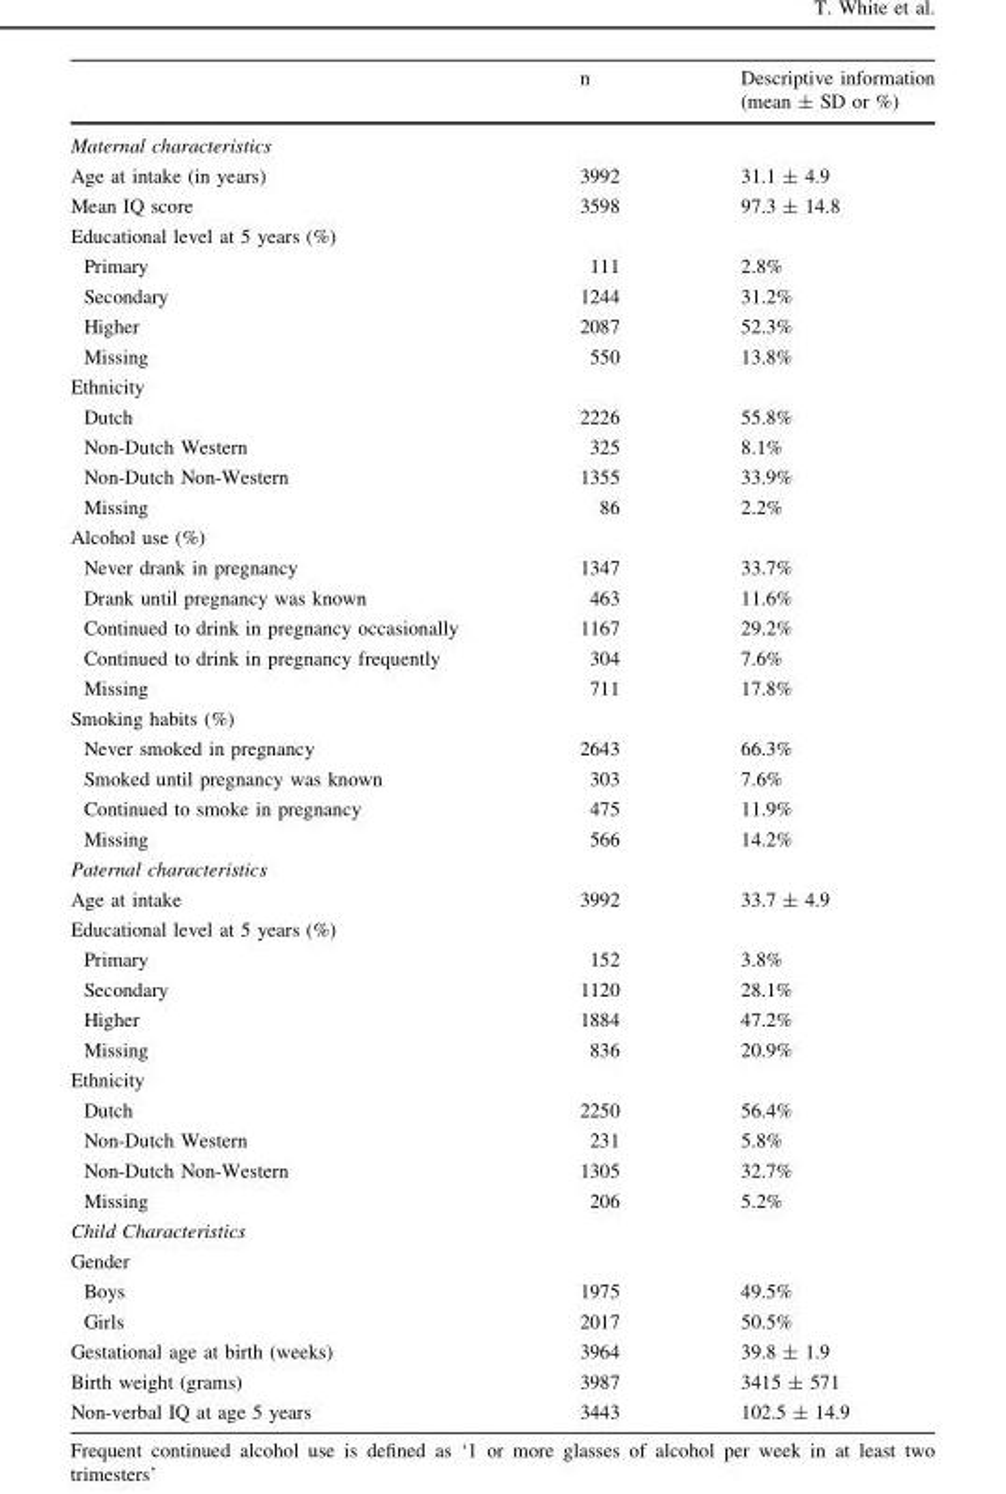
<table><thead><tr><td></td><td>n</td><td>Descriptive information (mean ± SD or %)</td></tr></thead><tbody><tr><td colspan="3">Maternal characteristics</td></tr><tr><td>Age at intake (in years)</td><td>3992</td><td>31.1 ± 4.9</td></tr><tr><td>Mean IQ score</td><td>3598</td><td>97.3 ± 14.8</td></tr><tr><td colspan="3">Educational level at 5 years (%)</td></tr><tr><td>Primary</td><td>111</td><td>2.8%</td></tr><tr><td>Secondary</td><td>1244</td><td>31.2%</td></tr><tr><td>Higher</td><td>2087</td><td>52.3%</td></tr><tr><td>Missing</td><td>550</td><td>13.8%</td></tr><tr><td colspan="3">Ethnicity</td></tr><tr><td>Dutch</td><td>2226</td><td>55.8%</td></tr><tr><td>Non-Dutch Western</td><td>325</td><td>8.1%</td></tr><tr><td>Non-Dutch Non-Western</td><td>1355</td><td>33.9%</td></tr><tr><td>Missing</td><td>86</td><td>2.2%</td></tr><tr><td colspan="3">Alcohol use (%)</td></tr><tr><td>Never drank in pregnancy</td><td>1347</td><td>33.7%</td></tr><tr><td>Drank until pregnancy was known</td><td>463</td><td>11.6%</td></tr><tr><td>Continued to drink in pregnancy occasionally</td><td>1167</td><td>29.2%</td></tr><tr><td>Continued to drink in pregnancy frequently</td><td>304</td><td>7.6%</td></tr><tr><td>Missing</td><td>711</td><td>17.8%</td></tr><tr><td colspan="3">Smoking habits (%)</td></tr><tr><td>Never smoked in pregnancy</td><td>2643</td><td>66.3%</td></tr><tr><td>Smoked until pregnancy was known</td><td>303</td><td>7.6%</td></tr><tr><td>Continued to smoke in pregnancy</td><td>475</td><td>11.9%</td></tr><tr><td>Missing</td><td>566</td><td>14.2%</td></tr><tr><td colspan="3">Paternal characteristics</td></tr><tr><td>Age at intake</td><td>3992</td><td>33.7 ± 4.9</td></tr><tr><td colspan="3">Educational level at 5 years (%)</td></tr><tr><td>Primary</td><td>152</td><td>3.8%</td></tr><tr><td>Secondary</td><td>1120</td><td>28.1%</td></tr><tr><td>Higher</td><td>1884</td><td>47.2%</td></tr><tr><td>Missing</td><td>836</td><td>20.9%</td></tr><tr><td colspan="3">Ethnicity</td></tr><tr><td>Dutch</td><td>2250</td><td>56.4%</td></tr><tr><td>Non-Dutch Western</td><td>231</td><td>5.8%</td></tr><tr><td>Non-Dutch Non-Western</td><td>1305</td><td>32.7%</td></tr><tr><td>Missing</td><td>206</td><td>5.2%</td></tr><tr><td colspan="3">Child Characteristics</td></tr><tr><td colspan="3">Gender</td></tr><tr><td>Boys</td><td>1975</td><td>49.5%</td></tr><tr><td>Girls</td><td>2017</td><td>50.5%</td></tr><tr><td>Gestational age at birth (weeks)</td><td>3964</td><td>39.8 ± 1.9</td></tr><tr><td>Birth weight (grams)</td><td>3987</td><td>3415 ± 571</td></tr><tr><td>Non-verbal IQ at age 5 years</td><td>3443</td><td>102.5 ± 14.9</td></tr></tbody></table>